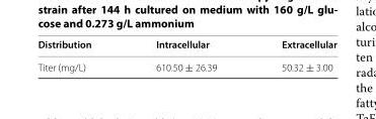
<table><thead><tr><td>Distribution</td><td>Intracellular</td><td>Extracellular</td></tr></thead><tbody><tr><td>Titer (mg/L)</td><td>610.50 ± 26.39</td><td>50.32 ± 3.00</td></tr></tbody></table>